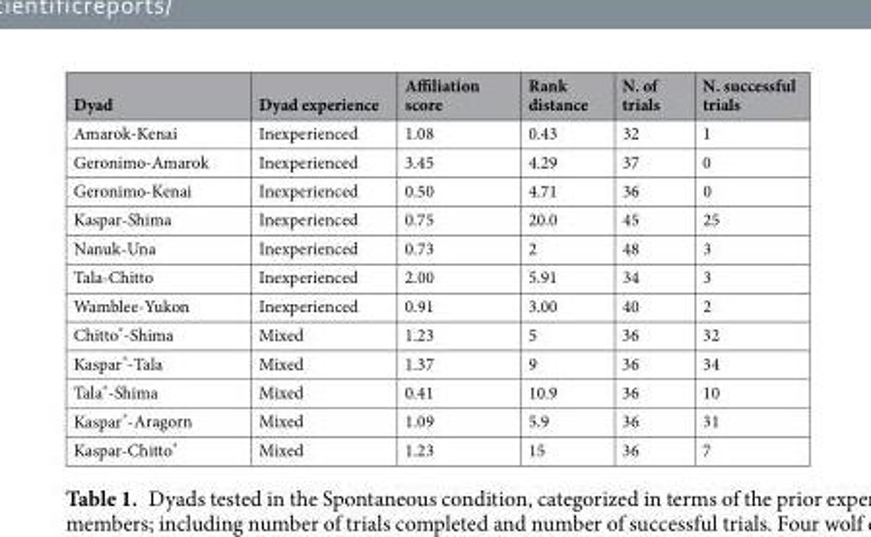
<table><thead><tr><td>Dyad</td><td>Dyad experience</td><td>Affiliation score</td><td>Rank distance</td><td>N. of trials</td><td>N. successful trials</td></tr></thead><tbody><tr><td>Amarok-Kenai</td><td>Inexperienced</td><td>1.08</td><td>0.43</td><td>32</td><td>1</td></tr><tr><td>Geronimo-Amarok</td><td>Inexperienced</td><td>3.45</td><td>4.29</td><td>37</td><td>0</td></tr><tr><td>Geronimo-Kenai</td><td>Inexperienced</td><td>0.50</td><td>4.71</td><td>36</td><td>0</td></tr><tr><td>Kaspar-Shima</td><td>Inexperienced</td><td>0.75</td><td>20.0</td><td>45</td><td>25</td></tr><tr><td>Nanuk-Una</td><td>Inexperienced</td><td>0.73</td><td>2</td><td>48</td><td>3</td></tr><tr><td>Tala-Chitto</td><td>Inexperienced</td><td>2.00</td><td>5.91</td><td>34</td><td>3</td></tr><tr><td>Wamblee-Yukon</td><td>Inexperienced</td><td>0.91</td><td>3.00</td><td>40</td><td>2</td></tr><tr><td>Chitto*-Shima</td><td>Mixed</td><td>1.23</td><td>5</td><td>36</td><td>32</td></tr><tr><td>Kaspar*-Tala</td><td>Mixed</td><td>1.37</td><td>9</td><td>36</td><td>34</td></tr><tr><td>Tala*-Shima</td><td>Mixed</td><td>0.41</td><td>10.9</td><td>36</td><td>10</td></tr><tr><td>Kaspar*-Aragorn</td><td>Mixed</td><td>1.09</td><td>5.9</td><td>36</td><td>31</td></tr><tr><td>Kaspar-Chitto*</td><td>Mixed</td><td>1.23</td><td>15</td><td>36</td><td>7</td></tr></tbody></table>